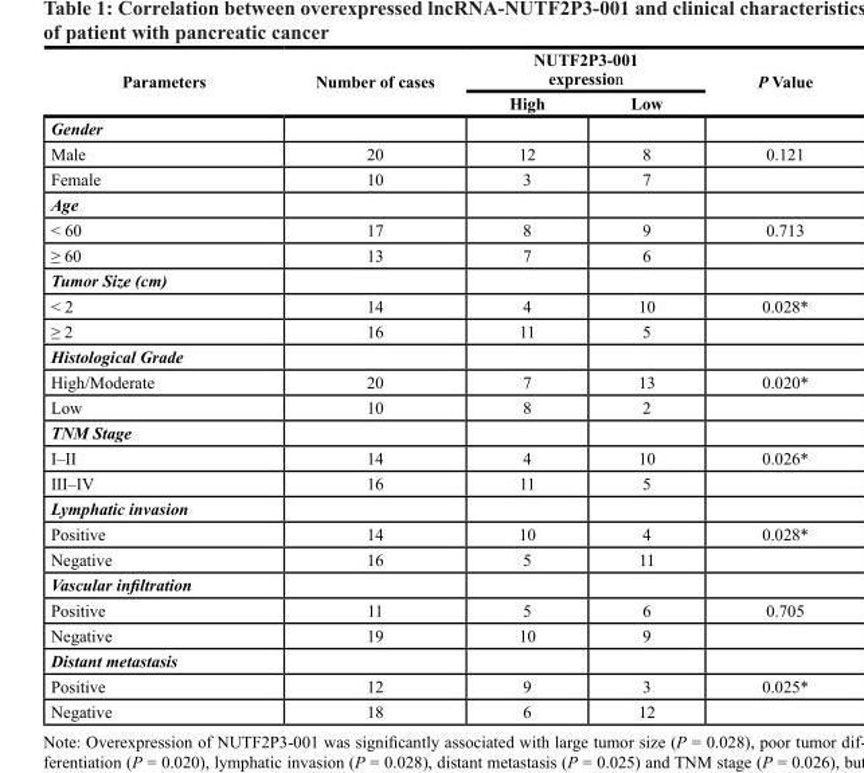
<table><thead><tr><td rowspan="2">Parameters</td><td rowspan="2">Number of cases</td><td colspan="2">NUTF2P3-001 expression</td><td rowspan="2">P Value</td></tr><tr><td>High</td><td>Low</td></tr></thead><tbody><tr><td colspan="5">Gender</td></tr><tr><td>Male</td><td>20</td><td>12</td><td>8</td><td>0.121</td></tr><tr><td>Female</td><td>10</td><td>3</td><td>7</td><td></td></tr><tr><td colspan="5">Age</td></tr><tr><td>&lt; 60</td><td>17</td><td>8</td><td>9</td><td>0.713</td></tr><tr><td>≥ 60</td><td>13</td><td>7</td><td>6</td><td></td></tr><tr><td colspan="5">Tumor Size (cm)</td></tr><tr><td>&lt; 2</td><td>14</td><td>4</td><td>10</td><td>0.028*</td></tr><tr><td>≥ 2</td><td>16</td><td>11</td><td>5</td><td></td></tr><tr><td colspan="5">Histological Grade</td></tr><tr><td>High/Moderate</td><td>20</td><td>7</td><td>13</td><td>0.020*</td></tr><tr><td>Low</td><td>10</td><td>8</td><td>2</td><td></td></tr><tr><td colspan="5">TNM Stage</td></tr><tr><td>I–II</td><td>14</td><td>4</td><td>10</td><td>0.026*</td></tr><tr><td>III–IV</td><td>16</td><td>11</td><td>5</td><td></td></tr><tr><td colspan="5">Lymphatic invasion</td></tr><tr><td>Positive</td><td>14</td><td>10</td><td>4</td><td>0.028*</td></tr><tr><td>Negative</td><td>16</td><td>5</td><td>11</td><td></td></tr><tr><td colspan="5">Vascular infiltration</td></tr><tr><td>Positive</td><td>11</td><td>5</td><td>6</td><td>0.705</td></tr><tr><td>Negative</td><td>19</td><td>10</td><td>9</td><td></td></tr><tr><td colspan="5">Distant metastasis</td></tr><tr><td>Positive</td><td>12</td><td>9</td><td>3</td><td>0.025*</td></tr><tr><td>Negative</td><td>18</td><td>6</td><td>12</td><td></td></tr></tbody></table>